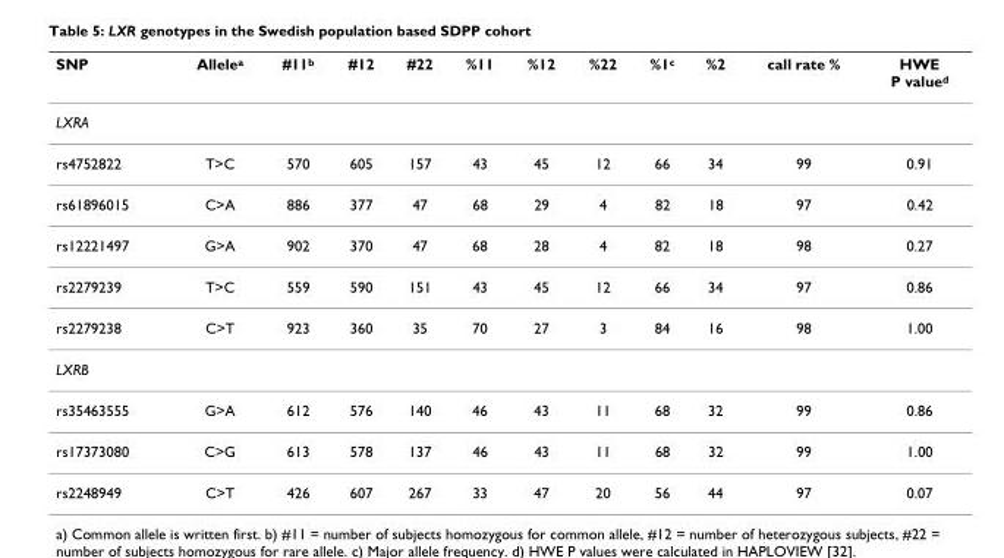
<table><thead><tr><td>SNP</td><td>Allele<sup>a</sup></td><td>#11<sup>b</sup></td><td>#12</td><td>#22</td><td>%11</td><td>%12</td><td>%22</td><td>%1<sup>c</sup></td><td>%2</td><td>call rate %</td><td>HWE P value<sup>d</sup></td></tr></thead><tbody><tr><td colspan="12">LXRA</td></tr><tr><td>rs4752822</td><td>T&gt;C</td><td>570</td><td>605</td><td>157</td><td>43</td><td>45</td><td>12</td><td>66</td><td>34</td><td>99</td><td>0.91</td></tr><tr><td>rs61896015</td><td>C&gt;A</td><td>886</td><td>377</td><td>47</td><td>68</td><td>29</td><td>4</td><td>82</td><td>18</td><td>97</td><td>0.42</td></tr><tr><td>rs12221497</td><td>G&gt;A</td><td>902</td><td>370</td><td>47</td><td>68</td><td>28</td><td>4</td><td>82</td><td>18</td><td>98</td><td>0.27</td></tr><tr><td>rs2279239</td><td>T&gt;C</td><td>559</td><td>590</td><td>151</td><td>43</td><td>45</td><td>12</td><td>66</td><td>34</td><td>97</td><td>0.86</td></tr><tr><td>rs2279238</td><td>C&gt;T</td><td>923</td><td>360</td><td>35</td><td>70</td><td>27</td><td>3</td><td>84</td><td>16</td><td>98</td><td>1.00</td></tr><tr><td colspan="12">LXRB</td></tr><tr><td>rs35463555</td><td>G&gt;A</td><td>612</td><td>576</td><td>140</td><td>46</td><td>43</td><td>11</td><td>68</td><td>32</td><td>99</td><td>0.86</td></tr><tr><td>rs17373080</td><td>C&gt;G</td><td>613</td><td>578</td><td>137</td><td>46</td><td>43</td><td>11</td><td>68</td><td>32</td><td>99</td><td>1.00</td></tr><tr><td>rs2248949</td><td>C&gt;T</td><td>426</td><td>607</td><td>267</td><td>33</td><td>47</td><td>20</td><td>56</td><td>44</td><td>97</td><td>0.07</td></tr></tbody></table>